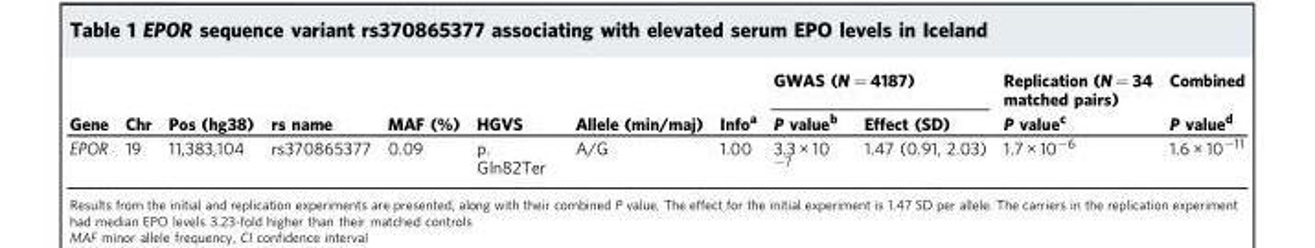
<table><thead><tr><td rowspan="2">Gene</td><td rowspan="2">Chr</td><td rowspan="2">Pos (hg38)</td><td rowspan="2">rs name</td><td rowspan="2">MAF (%)</td><td rowspan="2">HGVS</td><td rowspan="2">Allele (min/maj)</td><td rowspan="2">Info<sup>a</sup></td><td colspan="2">GWAS (N = 4187)</td><td rowspan="2">Replication (N = 34 matched pairs) P value<sup>c</sup></td><td rowspan="2">Combined P value<sup>d</sup></td></tr><tr><td>P value<sup>b</sup></td><td>Effect (SD)</td></tr></thead><tbody><tr><td>EPOR</td><td>19</td><td>11,383,104</td><td>rs370865377</td><td>0.09</td><td>p. Gln82Ter</td><td>A/G</td><td>1.00</td><td>3.3 × 10 <sup>−7</sup></td><td>1.47 (0.91, 2.03)</td><td>1.7 × 10<sup>−6</sup></td><td>1.6 × 10<sup>−11</sup></td></tr></tbody></table>